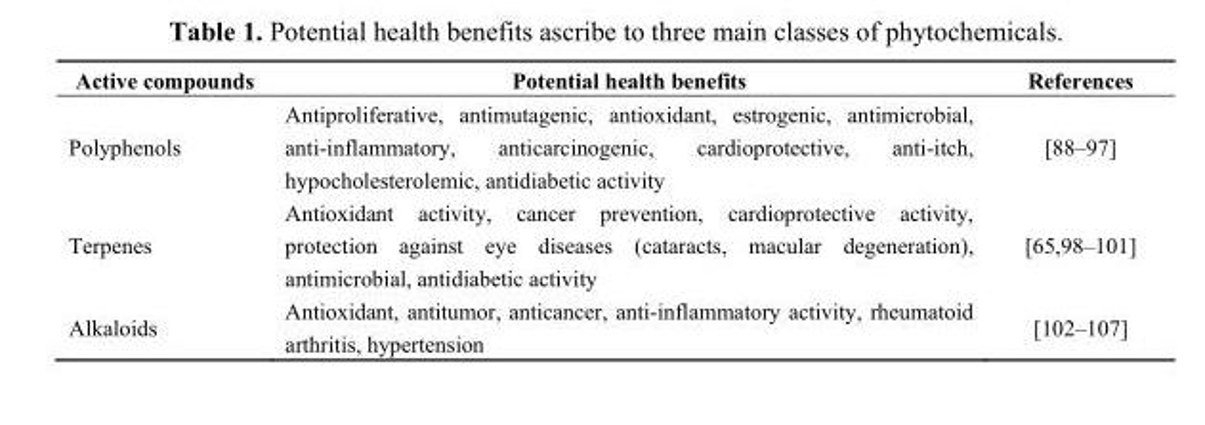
<table><thead><tr><td>Active compounds</td><td>Potential health benefits</td><td>References</td></tr></thead><tbody><tr><td>Polyphenols</td><td>Antiproliferative, antimutagenic, antioxidant, estrogenic, antimicrobial, anti-inflammatory, anticarcinogenic, cardioprotective, anti-itch, hypocholesterolemic, antidiabetic activity</td><td>[88–97]</td></tr><tr><td>Terpenes</td><td>Antioxidant activity, cancer prevention, cardioprotective activity, protection against eye diseases (cataracts, macular degeneration), antimicrobial, antidiabetic activity</td><td>[65,98–101]</td></tr><tr><td>Alkaloids</td><td>Antioxidant, antitumor, anticancer, anti-inflammatory activity, rheumatoid arthritis, hypertension</td><td>[102–107]</td></tr></tbody></table>